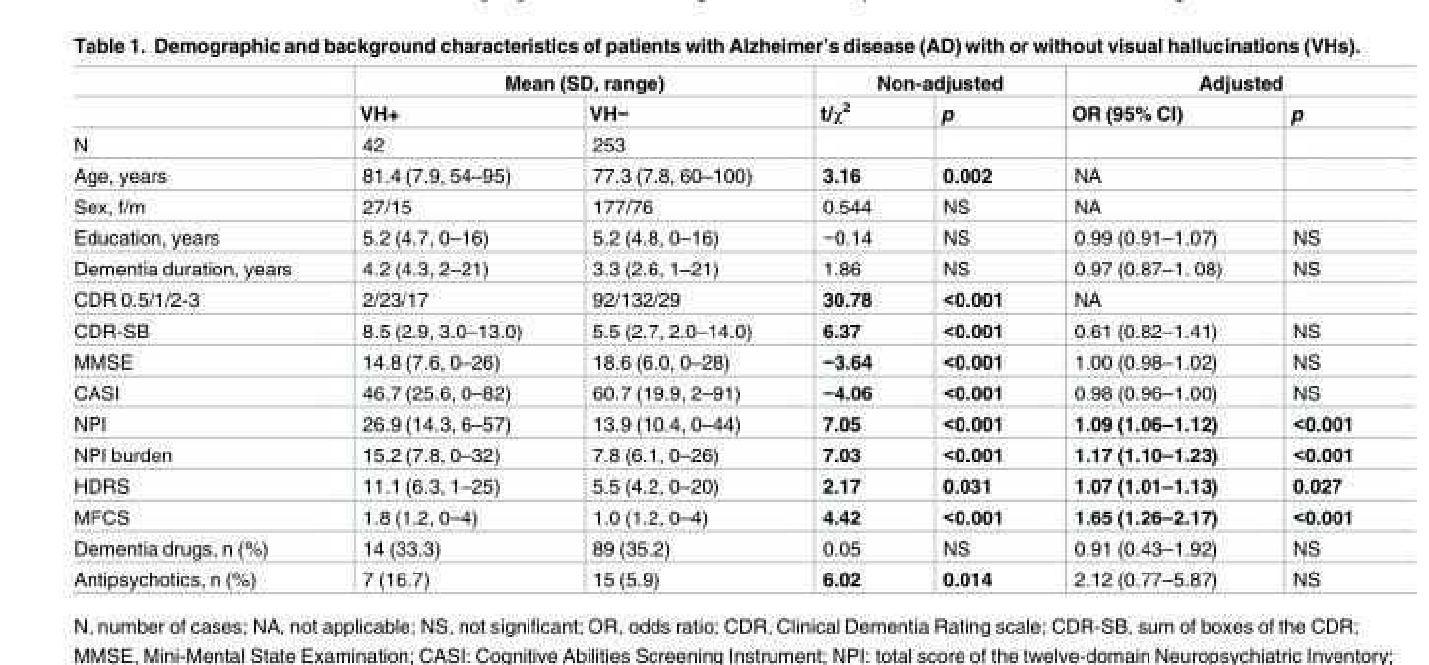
<table><thead><tr><td rowspan="2"></td><td colspan="2">Mean (SD, range)</td><td colspan="2">Non-adjusted</td><td colspan="2">Adjusted</td></tr><tr><td>VH+</td><td>VH−</td><td>t/χ<sup>2</sup></td><td>p</td><td>OR (95% CI)</td><td>p</td></tr></thead><tbody><tr><td>N</td><td>42</td><td>253</td><td></td><td></td><td></td><td></td></tr><tr><td>Age, years</td><td>81.4 (7.9, 54–95)</td><td>77.3 (7.8, 60–100)</td><td>3.16</td><td>0.002</td><td>NA</td><td></td></tr><tr><td>Sex, f/m</td><td>27/15</td><td>177/76</td><td>0.544</td><td>NS</td><td>NA</td><td></td></tr><tr><td>Education, years</td><td>5.2 (4.7, 0–16)</td><td>5.2 (4.8, 0–16)</td><td>−0.14</td><td>NS</td><td>0.99 (0.91–1.07)</td><td>NS</td></tr><tr><td>Dementia duration, years</td><td>4.2 (4.3, 2–21)</td><td>3.3 (2.6, 1–21)</td><td>1.86</td><td>NS</td><td>0.97 (0.87–1. 08)</td><td>NS</td></tr><tr><td>CDR 0.5/1/2-3</td><td>2/23/17</td><td>92/132/29</td><td>30.78</td><td>&lt;0.001</td><td>NA</td><td></td></tr><tr><td>CDR-SB</td><td>8.5 (2.9, 3.0–13.0)</td><td>5.5 (2.7, 2.0–14.0)</td><td>6.37</td><td>&lt;0.001</td><td>0.61 (0.82–1.41)</td><td>NS</td></tr><tr><td>MMSE</td><td>14.8 (7.6, 0–26)</td><td>18.6 (6.0, 0–28)</td><td>−3.64</td><td>&lt;0.001</td><td>1.00 (0.98–1.02)</td><td>NS</td></tr><tr><td>CASI</td><td>46.7 (25.6, 0–82)</td><td>60.7 (19.9, 2–91)</td><td>−4.06</td><td>&lt;0.001</td><td>0.98 (0.96–1.00)</td><td>NS</td></tr><tr><td>NPI</td><td>26.9 (14.3, 6–57)</td><td>13.9 (10.4, 0–44)</td><td>7.05</td><td>&lt;0.001</td><td>1.09 (1.06–1.12)</td><td>&lt;0.001</td></tr><tr><td>NPI burden</td><td>15.2 (7.8, 0–32)</td><td>7.8 (6.1, 0–26)</td><td>7.03</td><td>&lt;0.001</td><td>1.17 (1.10–1.23)</td><td>&lt;0.001</td></tr><tr><td>HDRS</td><td>11.1 (6.3, 1–25)</td><td>5.5 (4.2, 0–20)</td><td>2.17</td><td>0.031</td><td>1.07 (1.01–1.13)</td><td>0.027</td></tr><tr><td>MFCS</td><td>1.8 (1.2, 0–4)</td><td>1.0 (1.2, 0–4)</td><td>4.42</td><td>&lt;0.001</td><td>1.65 (1.26–2.17)</td><td>&lt;0.001</td></tr><tr><td>Dementia drugs, n (%)</td><td>14 (33.3)</td><td>89 (35.2)</td><td>0.05</td><td>NS</td><td>0.91 (0.43–1.92)</td><td>NS</td></tr><tr><td>Antipsychotics, n (%)</td><td>7 (16.7)</td><td>15 (5.9)</td><td>6.02</td><td>0.014</td><td>2.12 (0.77–5.87)</td><td>NS</td></tr></tbody></table>